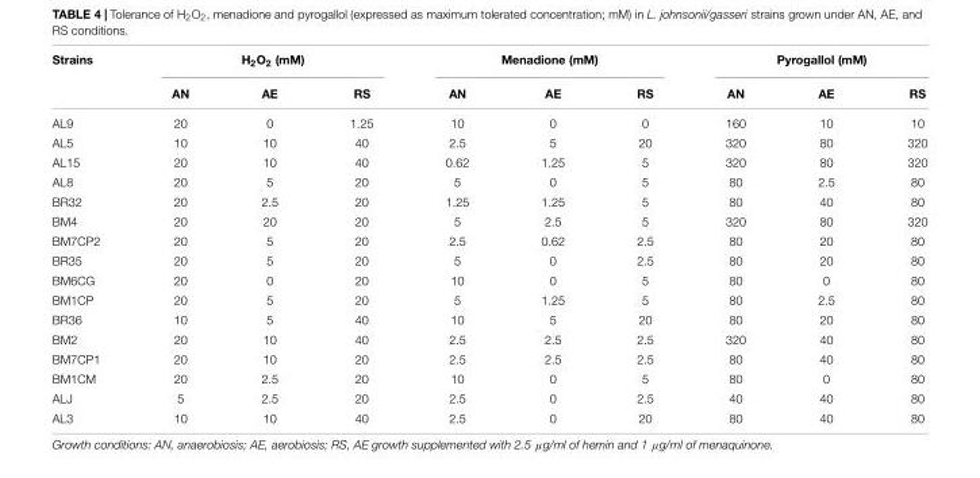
<table><thead><tr><td rowspan="2">Strains</td><td colspan="3">H<sub>2</sub>O<sub>2</sub> (mM)</td><td colspan="3">Menadione (mM)</td><td colspan="3">Pyrogallol (mM)</td></tr><tr><td>AN</td><td>AE</td><td>RS</td><td>AN</td><td>AE</td><td>RS</td><td>AN</td><td>AE</td><td>RS</td></tr></thead><tbody><tr><td>AL9</td><td>20</td><td>0</td><td>1.25</td><td>10</td><td>0</td><td>0</td><td>160</td><td>10</td><td>10</td></tr><tr><td>AL5</td><td>10</td><td>10</td><td>40</td><td>2.5</td><td>5</td><td>20</td><td>320</td><td>80</td><td>320</td></tr><tr><td>AL15</td><td>20</td><td>10</td><td>40</td><td>0.62</td><td>1.25</td><td>5</td><td>320</td><td>80</td><td>320</td></tr><tr><td>AL8</td><td>20</td><td>5</td><td>20</td><td>5</td><td>0</td><td>5</td><td>80</td><td>2.5</td><td>80</td></tr><tr><td>BR32</td><td>20</td><td>2.5</td><td>20</td><td>1.25</td><td>1.25</td><td>5</td><td>80</td><td>40</td><td>80</td></tr><tr><td>BM4</td><td>20</td><td>20</td><td>20</td><td>5</td><td>2.5</td><td>5</td><td>320</td><td>80</td><td>320</td></tr><tr><td>BM7CP2</td><td>20</td><td>5</td><td>20</td><td>2.5</td><td>0.62</td><td>2.5</td><td>80</td><td>20</td><td>80</td></tr><tr><td>BR35</td><td>20</td><td>5</td><td>20</td><td>5</td><td>0</td><td>2.5</td><td>80</td><td>20</td><td>80</td></tr><tr><td>BM6CG</td><td>20</td><td>0</td><td>20</td><td>10</td><td>0</td><td>5</td><td>80</td><td>0</td><td>80</td></tr><tr><td>BM1CP</td><td>20</td><td>5</td><td>20</td><td>5</td><td>1.25</td><td>5</td><td>80</td><td>2.5</td><td>80</td></tr><tr><td>BR36</td><td>10</td><td>5</td><td>40</td><td>10</td><td>5</td><td>20</td><td>80</td><td>20</td><td>80</td></tr><tr><td>BM2</td><td>20</td><td>10</td><td>40</td><td>2.5</td><td>2.5</td><td>2.5</td><td>320</td><td>40</td><td>80</td></tr><tr><td>BM7CP1</td><td>20</td><td>10</td><td>20</td><td>2.5</td><td>2.5</td><td>2.5</td><td>80</td><td>40</td><td>80</td></tr><tr><td>BM1CM</td><td>20</td><td>2.5</td><td>20</td><td>10</td><td>0</td><td>5</td><td>80</td><td>0</td><td>80</td></tr><tr><td>ALJ</td><td>5</td><td>2.5</td><td>20</td><td>2.5</td><td>0</td><td>2.5</td><td>40</td><td>40</td><td>80</td></tr><tr><td>AL3</td><td>10</td><td>10</td><td>40</td><td>2.5</td><td>0</td><td>20</td><td>80</td><td>40</td><td>80</td></tr></tbody></table>